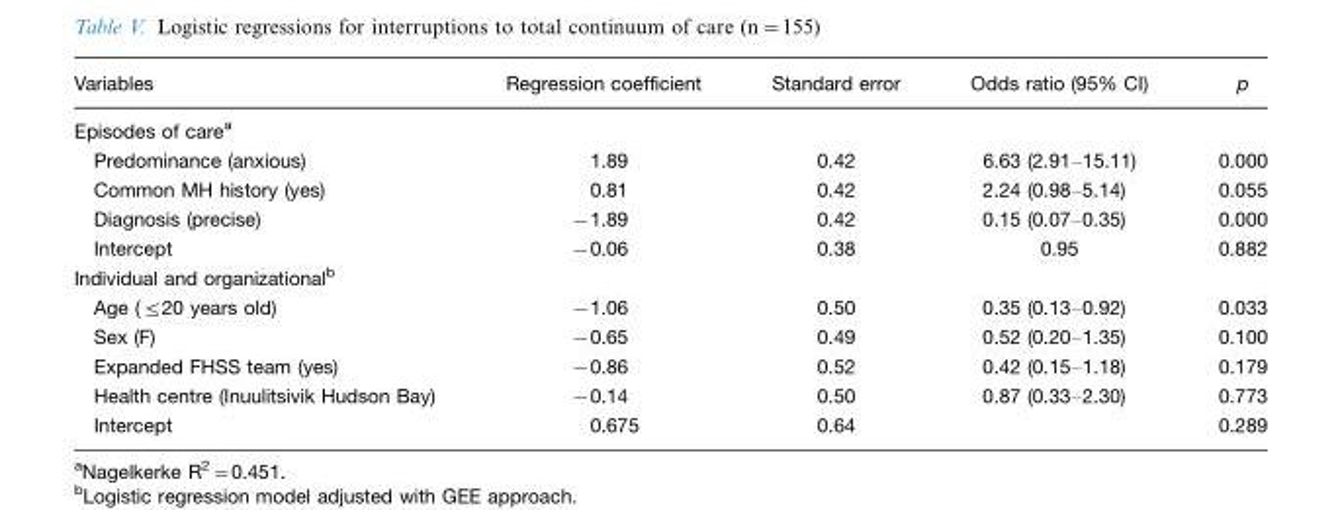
<table><thead><tr><td>Variables</td><td>Regression coefficient</td><td>Standard error</td><td>Odds ratio (95% CI)</td><td>p</td></tr></thead><tbody><tr><td colspan="5">Episodes of care<sup>a</sup></td></tr><tr><td>Predominance (anxious)</td><td>1.89</td><td>0.42</td><td>6.63 (2.91–15.11)</td><td>0.000</td></tr><tr><td>Common MH history (yes)</td><td>0.81</td><td>0.42</td><td>2.24 (0.98–5.14)</td><td>0.055</td></tr><tr><td>Diagnosis (precise)</td><td>−1.89</td><td>0.42</td><td>0.15 (0.07–0.35)</td><td>0.000</td></tr><tr><td>Intercept</td><td>−0.06</td><td>0.38</td><td>0.95</td><td>0.882</td></tr><tr><td colspan="5">Individual and organizational<sup>b</sup></td></tr><tr><td>Age (≤20 years old)</td><td>−1.06</td><td>0.50</td><td>0.35 (0.13–0.92)</td><td>0.033</td></tr><tr><td>Sex (F)</td><td>−0.65</td><td>0.49</td><td>0.52 (0.20–1.35)</td><td>0.100</td></tr><tr><td>Expanded FHSS team (yes)</td><td>−0.86</td><td>0.52</td><td>0.42 (0.15–1.18)</td><td>0.179</td></tr><tr><td>Health centre (Inuulitsivik Hudson Bay)</td><td>−0.14</td><td>0.50</td><td>0.87 (0.33–2.30)</td><td>0.773</td></tr><tr><td>Intercept</td><td>0.675</td><td>0.64</td><td></td><td>0.289</td></tr></tbody></table>